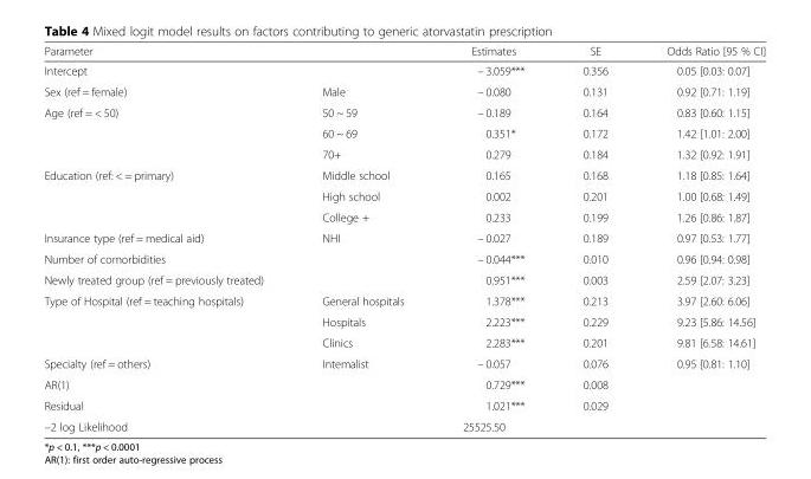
<table><thead><tr><td>Parameter</td><td></td><td>Estimates</td><td>SE</td><td>Odds Ratio [95 % CI]</td></tr></thead><tbody><tr><td>Intercept</td><td></td><td>– 3.059***</td><td>0.356</td><td>0.05 [0.03: 0.07]</td></tr><tr><td>Sex (ref = female)</td><td>Male</td><td>– 0.080</td><td>0.131</td><td>0.92 [0.71: 1.19]</td></tr><tr><td rowspan="3">Age (ref = &lt; 50)</td><td>50 ~ 59</td><td>– 0.189</td><td>0.164</td><td>0.83 [0.60: 1.15]</td></tr><tr><td>60 ~ 69</td><td>0.351*</td><td>0.172</td><td>1.42 [1.01: 2.00]</td></tr><tr><td>70+</td><td>0.279</td><td>0.184</td><td>1.32 [0.92: 1.91]</td></tr><tr><td rowspan="3">Education (ref: &lt; = primary)</td><td>Middle school</td><td>0.165</td><td>0.168</td><td>1.18 [0.85: 1.64]</td></tr><tr><td>High school</td><td>0.002</td><td>0.201</td><td>1.00 [0.68: 1.49]</td></tr><tr><td>College +</td><td>0.233</td><td>0.199</td><td>1.26 [0.86: 1.87]</td></tr><tr><td>Insurance type (ref = medical aid)</td><td>NHI</td><td>– 0.027</td><td>0.189</td><td>0.97 [0.53: 1.77]</td></tr><tr><td>Number of comorbidities</td><td></td><td>– 0.044***</td><td>0.010</td><td>0.96 [0.94: 0.98]</td></tr><tr><td>Newly treated group (ref = previously treated)</td><td></td><td>0.951***</td><td>0.003</td><td>2.59 [2.07: 3.23]</td></tr><tr><td rowspan="3">Type of Hospital (ref = teaching hospitals)</td><td>General hospitals</td><td>1.378***</td><td>0.213</td><td>3.97 [2.60: 6.06]</td></tr><tr><td>Hospitals</td><td>2.223***</td><td>0.229</td><td>9.23 [5.86: 14.56]</td></tr><tr><td>Clinics</td><td>2.283***</td><td>0.201</td><td>9.81 [6.58: 14.61]</td></tr><tr><td>Specialty (ref = others)</td><td>Intemalist</td><td>– 0.057</td><td>0.076</td><td>0.95 [0.81: 1.10]</td></tr><tr><td>AR(1)</td><td></td><td>0.729***</td><td>0.008</td><td></td></tr><tr><td>Residual</td><td></td><td>1.021***</td><td>0.029</td><td></td></tr><tr><td>–2 log Likelihood</td><td></td><td>25525.50</td><td></td><td></td></tr></tbody></table>